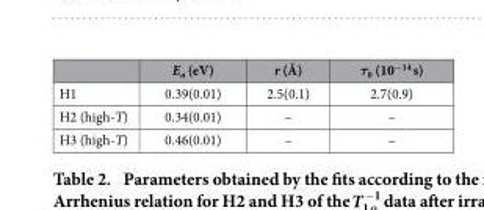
<table><thead><tr><td></td><td>E<sub>a</sub> (eV)</td><td>r (Å)</td><td>τ<sub>0</sub> (10<sup>−14</sup> s)</td></tr></thead><tbody><tr><td>H1</td><td>0.39(0.01)</td><td>2.5(0.1)</td><td>2.7(0.9)</td></tr><tr><td>H2 (high-T)</td><td>0.34(0.01)</td><td>–</td><td>–</td></tr><tr><td>H3 (high-T)</td><td>0.46(0.01)</td><td>–</td><td>–</td></tr></tbody></table>